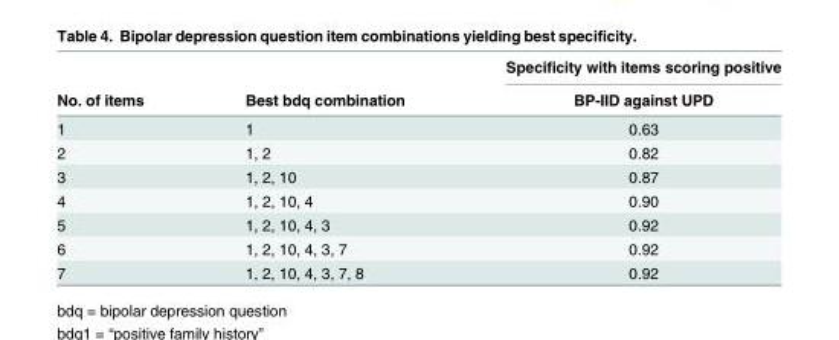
<table><thead><tr><td rowspan="2">No. of items</td><td rowspan="2">Best bdq combination</td><td rowspan="2">Specificity with items scoring positive BP-IID against UPD</td></tr><tr></tr></thead><tbody><tr><td>1</td><td>1</td><td>0.63</td></tr><tr><td>2</td><td>1, 2</td><td>0.82</td></tr><tr><td>3</td><td>1, 2, 10</td><td>0.87</td></tr><tr><td>4</td><td>1, 2, 10, 4</td><td>0.90</td></tr><tr><td>5</td><td>1, 2, 10, 4, 3</td><td>0.92</td></tr><tr><td>6</td><td>1, 2, 10, 4, 3, 7</td><td>0.92</td></tr><tr><td>7</td><td>1, 2, 10, 4, 3, 7, 8</td><td>0.92</td></tr></tbody></table>